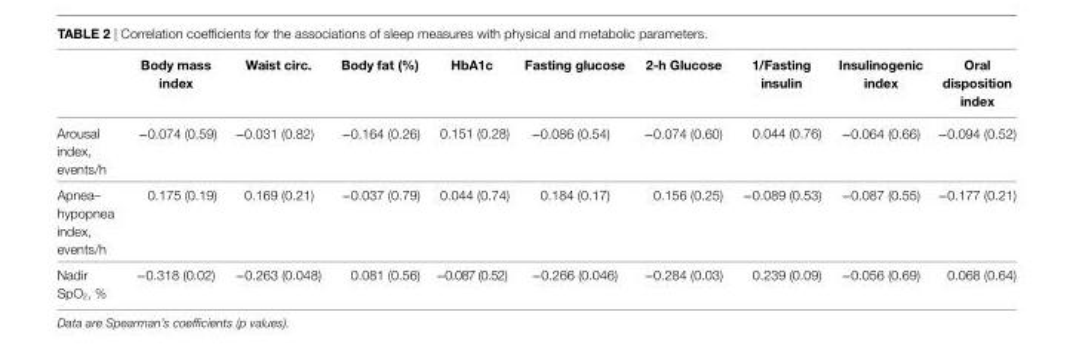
<table><thead><tr><td></td><td>Body mass index</td><td>Waist circ.</td><td>Body fat (%)</td><td>hba1c</td><td>Fasting glucose</td><td>2-h glucose</td><td>1/Fasting insulin</td><td>insulinogenic index</td><td>Oral disposition index</td></tr></thead><tbody><tr><td>Arousal index, events/h</td><td>−0.074 (0.59)</td><td>−0.031 (0.82)</td><td>−0.164 (0.26)</td><td>0.151 (0.28)</td><td>−0.086 (0.54)</td><td>−0.074 (0.60)</td><td>0.044 (0.76)</td><td>−0.064 (0.66)</td><td>−0.094 (0.52)</td></tr><tr><td>Apnea– hypopnea index, events/h</td><td>0.175 (0.19)</td><td>0.169 (0.21)</td><td>−0.037 (0.79)</td><td>0.044 (0.74)</td><td>0.184 (0.17)</td><td>0.156 (0.25)</td><td>−0.089 (0.53)</td><td>−0.087 (0.55)</td><td>−0.177 (0.21)</td></tr><tr><td>Nadir SpO<sub>2</sub>, %</td><td>−0.318 (0.02)</td><td>−0.263 (0.048)</td><td>0.081 (0.56)</td><td>−0.087 (0.52)</td><td>−0.266 (0.046)</td><td>−0.284 (0.03)</td><td>0.239 (0.09)</td><td>−0.056 (0.69)</td><td>0.068 (0.64)</td></tr></tbody></table>